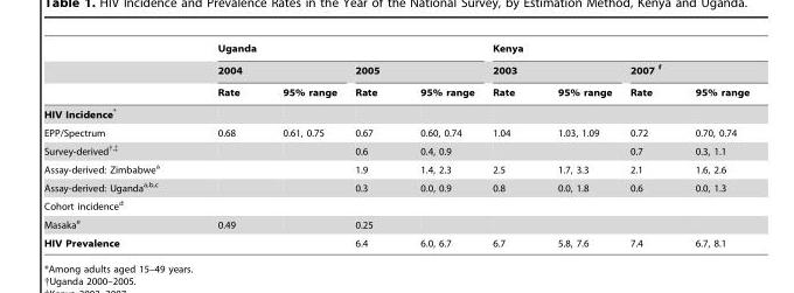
<table><thead><tr><td rowspan="3"></td><td colspan="4">Uganda</td><td colspan="4">Kenya</td></tr><tr><td colspan="2">2004</td><td colspan="2">2005</td><td colspan="2">2003</td><td colspan="2">2007 f</td></tr><tr><td>Rate</td><td>95% range</td><td>Rate</td><td>95% range</td><td>Rate</td><td>95% range</td><td>Rate</td><td>95% range</td></tr></thead><tbody><tr><td colspan="9">HIV Incidence*</td></tr><tr><td>EPP/Spectrum</td><td>0.68</td><td>0.61, 0.75</td><td>0.67</td><td>0.60, 0.74</td><td>1.04</td><td>1.03, 1.09</td><td>0.72</td><td>0.70, 0.74</td></tr><tr><td>Survey-derived†,‡</td><td></td><td></td><td>0.6</td><td>0.4, 0.9</td><td></td><td></td><td>0.7</td><td>0.3, 1.1</td></tr><tr><td>Assay-derived: Zimbabwe<sup>a</sup></td><td></td><td></td><td>1.9</td><td>1.4, 2.3</td><td>2.5</td><td>1.7, 3.3</td><td>2.1</td><td>1.6, 2.6</td></tr><tr><td>Assay-derived: Ugandaa,b,c</td><td></td><td></td><td>0.3</td><td>0.0, 0.9</td><td>0.8</td><td>0.0, 1.8</td><td>0.6</td><td>0.0, 1.3</td></tr><tr><td colspan="9">Cohort incidence<sup>d</sup></td></tr><tr><td>Masaka<sup>e</sup></td><td>0.49</td><td></td><td>0.25</td><td></td><td></td><td></td><td></td><td></td></tr><tr><td>HIV Prevalence</td><td></td><td></td><td>6.4</td><td>6.0, 6.7</td><td>6.7</td><td>5.8, 7.6</td><td>7.4</td><td>6.7, 8.1</td></tr></tbody></table>